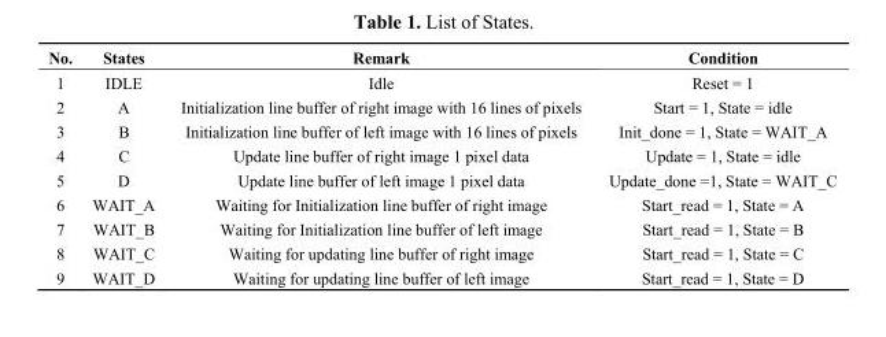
<table><thead><tr><td>No.</td><td>States</td><td>Remark</td><td>Condition</td></tr></thead><tbody><tr><td>1</td><td>IDLE</td><td>Idle</td><td>Reset = 1</td></tr><tr><td>2</td><td>A</td><td>Initialization line buffer of right image with 16 lines of pixels</td><td>Start = 1, State = idle</td></tr><tr><td>3</td><td>B</td><td>Initialization line buffer of left image with 16 lines of pixels</td><td>Init_done = 1, State = WAIT_A</td></tr><tr><td>4</td><td>C</td><td>Update line buffer of right image 1 pixel data</td><td>Update = 1, State = idle</td></tr><tr><td>5</td><td>D</td><td>Update line buffer of left image 1 pixel data</td><td>Update_done =1, State = WAIT_C</td></tr><tr><td>6</td><td>WAIT_A</td><td>Waiting for Initialization line buffer of right image</td><td>Start_read = 1, State = A</td></tr><tr><td>7</td><td>WAIT_B</td><td>Waiting for Initialization line buffer of left image</td><td>Start_read = 1, State = B</td></tr><tr><td>8</td><td>WAIT_C</td><td>Waiting for updating line buffer of right image</td><td>Start_read = 1, State = C</td></tr><tr><td>9</td><td>WAIT_D</td><td>Waiting for updating line buffer of left image</td><td>Start_read = 1, State = D</td></tr></tbody></table>